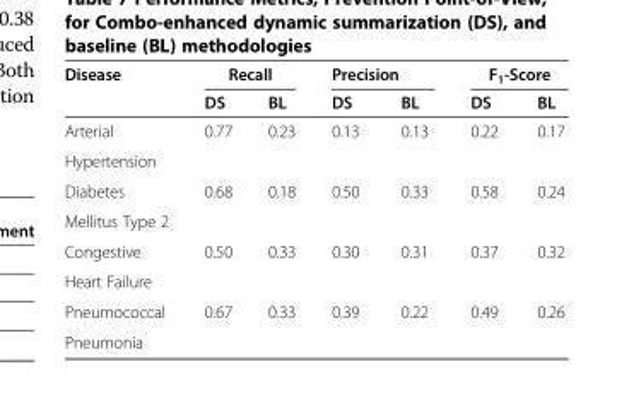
<table><thead><tr><td rowspan="2">Disease</td><td colspan="2">Recall</td><td colspan="2">Precision</td><td colspan="2">F<sub>1</sub>-Score</td></tr><tr><td>DS</td><td>BL</td><td>DS</td><td>BL</td><td>DS</td><td>BL</td></tr></thead><tbody><tr><td>Arterial</td><td>0.77</td><td>0.23</td><td>0.13</td><td>0.13</td><td>0.22</td><td>0.17</td></tr><tr><td colspan="7">Hypertension</td></tr><tr><td>Diabetes</td><td>0.68</td><td>0.18</td><td>0.50</td><td>0.33</td><td>0.58</td><td>0.24</td></tr><tr><td colspan="7">Mellitus Type 2</td></tr><tr><td>Congestive</td><td>0.50</td><td>0.33</td><td>0.30</td><td>0.31</td><td>0.37</td><td>0.32</td></tr><tr><td colspan="7">Heart Failure</td></tr><tr><td>Pneumococcal</td><td>0.67</td><td>0.33</td><td>0.39</td><td>0.22</td><td>0.49</td><td>0.26</td></tr><tr><td>Pneumonia</td><td colspan="6"></td></tr></tbody></table>